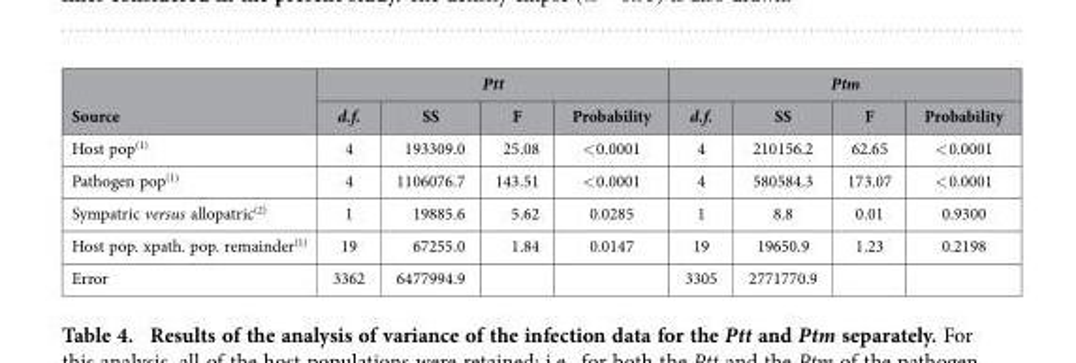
<table><thead><tr><td rowspan="2">Source</td><td colspan="4">Ptt</td><td colspan="4">Ptm</td></tr><tr><td>d.f.</td><td>SS</td><td>F</td><td>Probability</td><td>d.f.</td><td>SS</td><td>F</td><td>Probability</td></tr></thead><tbody><tr><td>Host pop(1)</td><td>4</td><td>193309.0</td><td>25.08</td><td>&lt; 0.0001</td><td>4</td><td>210156.2</td><td>62.65</td><td>&lt; 0.0001</td></tr><tr><td>Pathogen pop(1)</td><td>4</td><td>1106076.7</td><td>143.51</td><td>&lt; 0.0001</td><td>4</td><td>580584.3</td><td>173.07</td><td>&lt; 0.0001</td></tr><tr><td>Sympatric versus allopatric(2)</td><td>1</td><td>19885.6</td><td>5.62</td><td>0.0285</td><td>1</td><td>8.8</td><td>0.01</td><td>0.9300</td></tr><tr><td>Host pop. xpath. pop. remainder(1)</td><td>19</td><td>67255.0</td><td>1.84</td><td>0.0147</td><td>19</td><td>19650.9</td><td>1.23</td><td>0.2198</td></tr><tr><td>Error</td><td>3362</td><td>6477994.9</td><td></td><td></td><td>3305</td><td>2771770.9</td><td></td><td></td></tr></tbody></table>